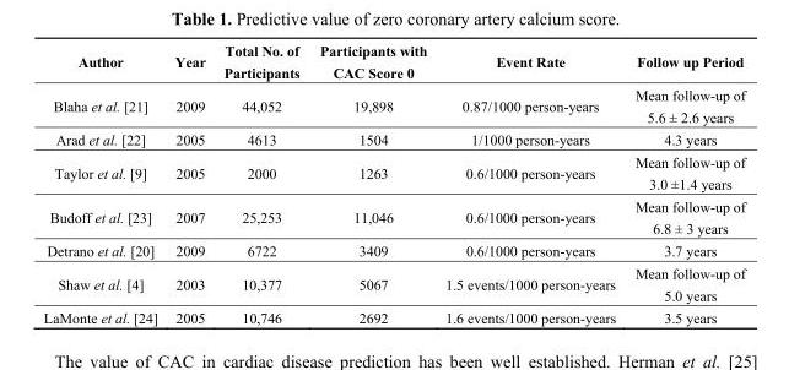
<table><thead><tr><td>Author</td><td>Year</td><td>Total No. of Participants</td><td>Participants with CAC Score 0</td><td>Event Rate</td><td>Follow up Period</td></tr></thead><tbody><tr><td>Blaha et al. [21]</td><td>2009</td><td>44,052</td><td>19,898</td><td>0.87/1000 person-years</td><td>Mean follow-up of 5.6 ± 2.6 years</td></tr><tr><td>Arad et al. [22]</td><td>2005</td><td>4613</td><td>1504</td><td>1/1000 person-years</td><td>4.3 years</td></tr><tr><td>Taylor et al. [9]</td><td>2005</td><td>2000</td><td>1263</td><td>0.6/1000 person-years</td><td>Mean follow-up of 3.0 ±1.4 years</td></tr><tr><td>Budoff et al. [23]</td><td>2007</td><td>25,253</td><td>11,046</td><td>0.6/1000 person-years</td><td>Mean follow-up of 6.8 ± 3 years</td></tr><tr><td>Detrano et al. [20]</td><td>2009</td><td>6722</td><td>3409</td><td>0.6/1000 person-years</td><td>3.7 years</td></tr><tr><td>Shaw et al. [4]</td><td>2003</td><td>10,377</td><td>5067</td><td>1.5 events/1000 person-years</td><td>Mean follow-up of 5.0 years</td></tr><tr><td>LaMonte et al. [24]</td><td>2005</td><td>10,746</td><td>2692</td><td>1.6 events/1000 person-years</td><td>3.5 years</td></tr></tbody></table>